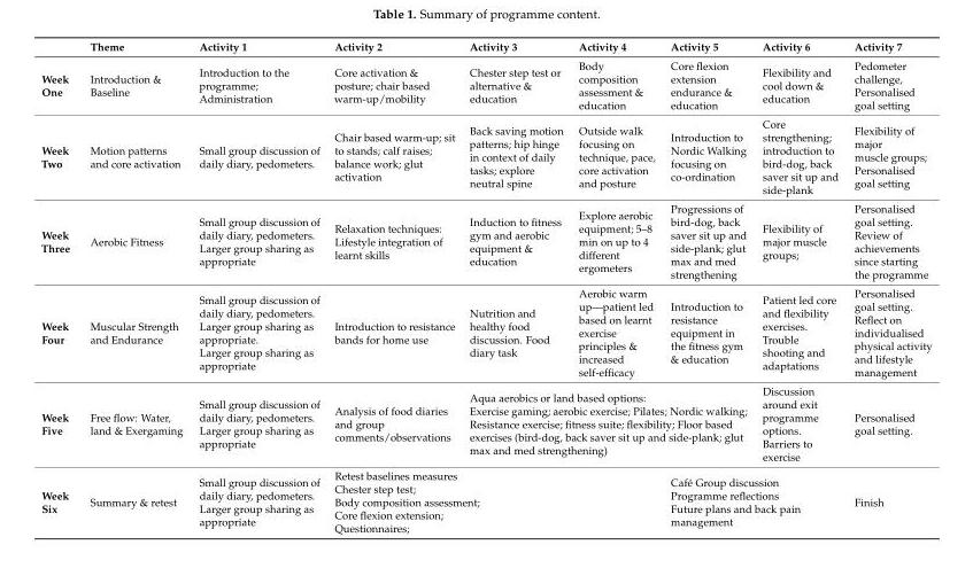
<table><thead><tr><td></td><td>Theme</td><td>Activity 1</td><td>Activity 2</td><td>Activity 3</td><td>Activity 4</td><td>Activity 5</td><td>Activity 6</td><td>Activity 7</td></tr></thead><tbody><tr><td>Week One</td><td>Introduction &amp; Baseline</td><td>Introduction to the programme; Administration</td><td>Core activation &amp; posture; chair based warm-up/mobility</td><td>Chester step test or alternative &amp; education</td><td>Body composition assessment &amp; education</td><td>Core flexion extension endurance &amp; education</td><td>Flexibility and cool down &amp; education</td><td>Pedometer challenge, Personalised goal setting</td></tr><tr><td>Week Two</td><td>Motion patterns and core activation</td><td>Small group discussion of daily diary, pedometers.</td><td>Chair based warm-up; sit to stands; calf raises; balance work; glut activation</td><td>Back saving motion patterns; hip hinge in context of daily tasks; explore neutral spine</td><td>Outside walk focusing on technique, pace, core activation and posture</td><td>Introduction to Nordic Walking focusing on co-ordination</td><td>Core strengthening; introduction to bird-dog, back saver sit up and side-plank</td><td>Flexibility of major muscle groups; Personalised goal setting</td></tr><tr><td>Week Three</td><td>Aerobic Fitness</td><td>Small group discussion of daily diary, pedometers. Larger group sharing as appropriate</td><td>Relaxation techniques: Lifestyle integration of learnt skills</td><td>Induction to fitness gym and aerobic equipment &amp; education</td><td>Explore aerobic equipment; 5–8 min on up to 4 different ergometers</td><td>Progressions of bird-dog, back saver sit up and side-plank; glut max and med strengthening</td><td>Flexibility of major muscle groups;</td><td>Personalised goal setting. Review of achievements since starting the programme</td></tr><tr><td>Week Four</td><td>Muscular Strength and Endurance</td><td>Small group discussion of daily diary, pedometers. Larger group sharing as appropriate. Larger group sharing as appropriate</td><td>Introduction to resistance bands for home use</td><td>Nutrition and healthy food discussion. Food diary task</td><td>Aerobic warm up—patient led based on learnt exercise principles &amp; increased self-efficacy</td><td>Introduction to resistance equipment in the fitness gym &amp; education</td><td>Patient led core and flexibility exercises. Trouble shooting and adaptations</td><td>Personalised goal setting. Reflect on individualised physical activity and lifestyle management</td></tr><tr><td>Week Five</td><td>Free flow: Water, land &amp; Exergaming</td><td>Small group discussion of daily diary, pedometers. Larger group sharing as appropriate</td><td>Analysis of food diaries and group comments/observations</td><td colspan="3">Aqua aerobics or land based options: Exercise gaming; aerobic exercise; Pilates; Nordic walking; Resistance exercise; fitness suite; flexibility; Floor based exercises (bird-dog, back saver sit up and side-plank; glut max and med strengthening)</td><td>Discussion around exit programme options. Barriers to exercise</td><td>Personalised goal setting.</td></tr><tr><td>Week Six</td><td>Summary &amp; retest</td><td>Small group discussion of daily diary, pedometers. Larger group sharing as appropriate</td><td colspan="3">Retest baselines measures Chester step test; Body composition assessment; Core flexion extension; Questionnaires;</td><td colspan="2">Café Group discussion Programme reflections Future plans and back pain management</td><td>Finish</td></tr></tbody></table>